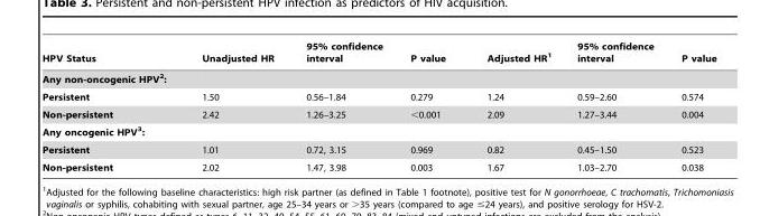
<table><thead><tr><td>HPV Status</td><td>Unadjusted HR</td><td>95% confidence interval</td><td>P value</td><td>Adjusted HR<sup>1</sup></td><td>95% confidence interval</td><td>P value</td></tr></thead><tbody><tr><td colspan="7">Any non-oncogenic HPV2:</td></tr><tr><td>Persistent</td><td>1.50</td><td>0.56–1.84</td><td>0.279</td><td>1.24</td><td>0.59–2.60</td><td>0.574</td></tr><tr><td>Non-persistent</td><td>2.42</td><td>1.26–3.25</td><td>&lt;0.001</td><td>2.09</td><td>1.27–3.44</td><td>0.004</td></tr><tr><td colspan="7">Any oncogenic HPV3:</td></tr><tr><td>Persistent</td><td>1.01</td><td>0.72, 3.15</td><td>0.969</td><td>0.82</td><td>0.45–1.50</td><td>0.523</td></tr><tr><td>Non-persistent</td><td>2.02</td><td>1.47, 3.98</td><td>0.003</td><td>1.67</td><td>1.03–2.70</td><td>0.038</td></tr></tbody></table>